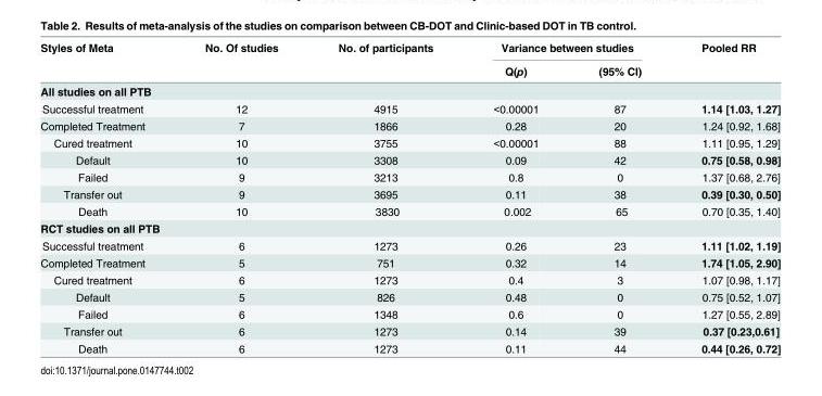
<table><thead><tr><td rowspan="2">Styles of Meta</td><td rowspan="2">No. Of studies</td><td rowspan="2">No. of participants</td><td colspan="2">Variance between studies</td><td rowspan="2">Pooled RR</td></tr><tr><td>Q(p)</td><td>(95% CI)</td></tr></thead><tbody><tr><td colspan="6">All studies on all PTB</td></tr><tr><td>Successful treatment</td><td>12</td><td>4915</td><td>&lt;0.00001</td><td>87</td><td>1.14 [1.03, 1.27]</td></tr><tr><td>Completed Treatment</td><td>7</td><td>1866</td><td>0.28</td><td>20</td><td>1.24 [0.92, 1.68]</td></tr><tr><td>Cured treatment</td><td>10</td><td>3755</td><td>&lt;0.00001</td><td>88</td><td>1.11 [0.95, 1.29]</td></tr><tr><td>Default</td><td>10</td><td>3308</td><td>0.09</td><td>42</td><td>0.75 [0.58, 0.98]</td></tr><tr><td>Failed</td><td>9</td><td>3213</td><td>0.8</td><td>0</td><td>1.37 [0.68, 2.76]</td></tr><tr><td>Transfer out</td><td>9</td><td>3695</td><td>0.11</td><td>38</td><td>0.39 [0.30, 0.50]</td></tr><tr><td>Death</td><td>10</td><td>3830</td><td>0.002</td><td>65</td><td>0.70 [0.35, 1.40]</td></tr><tr><td colspan="6">RCT studies on all PTB</td></tr><tr><td>Successful treatment</td><td>6</td><td>1273</td><td>0.26</td><td>23</td><td>1.11 [1.02, 1.19]</td></tr><tr><td>Completed Treatment</td><td>5</td><td>751</td><td>0.32</td><td>14</td><td>1.74 [1.05, 2.90]</td></tr><tr><td>Cured treatment</td><td>6</td><td>1273</td><td>0.4</td><td>3</td><td>1.07 [0.98, 1.17]</td></tr><tr><td>Default</td><td>5</td><td>826</td><td>0.48</td><td>0</td><td>0.75 [0.52, 1.07]</td></tr><tr><td>Failed</td><td>6</td><td>1348</td><td>0.6</td><td>0</td><td>1.27 [0.55, 2.89]</td></tr><tr><td>Transfer out</td><td>6</td><td>1273</td><td>0.14</td><td>39</td><td>0.37 [0.23,0.61]</td></tr><tr><td>Death</td><td>6</td><td>1273</td><td>0.11</td><td>44</td><td>0.44 [0.26, 0.72]</td></tr></tbody></table>